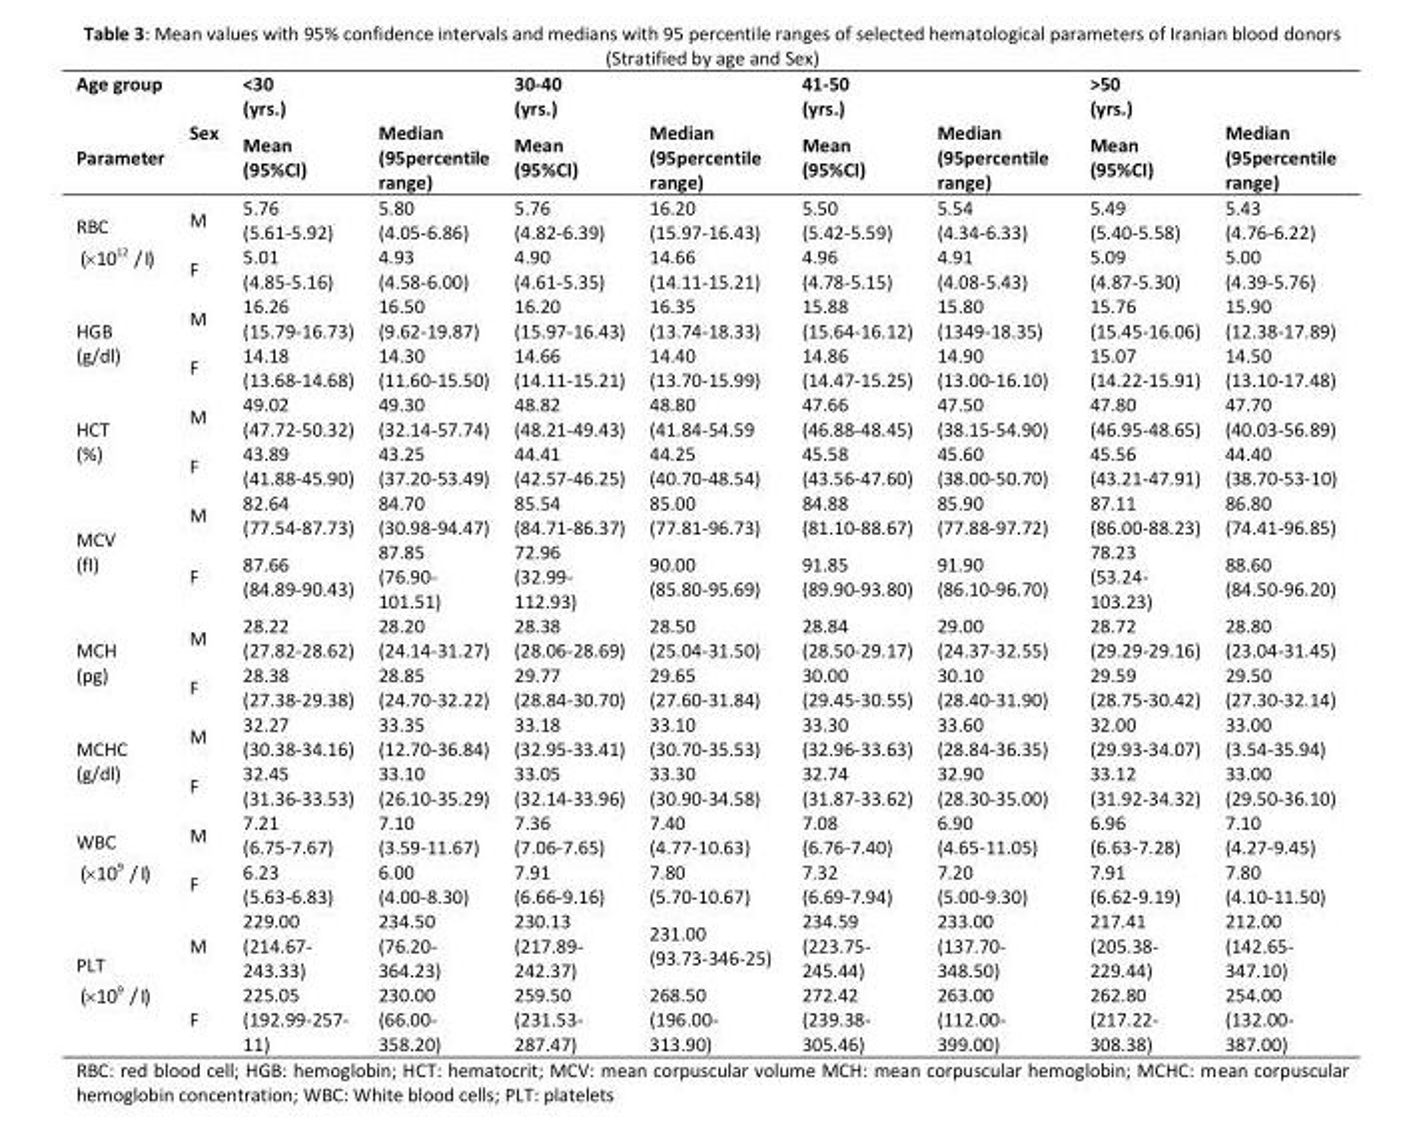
<table><thead><tr><td rowspan="2">Age group Parameter</td><td rowspan="2">Sex</td><td colspan="2">&lt;30 (yrs.)</td><td colspan="2">30-40 (yrs.)</td><td colspan="2">41-50 (yrs.)</td><td colspan="2">&gt;50 (yrs.)</td></tr><tr><td>Mean (95%CI)</td><td>Median (95percentile range)</td><td>Mean (95%CI)</td><td>Median (95percentile range)</td><td>Mean (95%CI)</td><td>Median (95percentile range)</td><td>Mean (95%CI)</td><td>Median (95percentile range)</td></tr></thead><tbody><tr><td rowspan="2">RBC 12 ( 10 /I) </td><td>M</td><td>5.76 (5.61-5.92)</td><td>5.80 (4.05-6.86)</td><td>5.76 (4.82-6.39)</td><td>16.20 (15.97-16.43)</td><td>5.50 (5.42-5.59)</td><td>5.54 (4.34-6.33)</td><td>5.49 (5.40-5.58)</td><td>5.43 (4.76-6.22)</td></tr><tr><td>F</td><td>5.01 (4.85-5.16)</td><td>4.93 (4.58-6.00)</td><td>4.90 (4.61-5.35)</td><td>14.66 (14.11-15.21)</td><td>4.96 (4.78-5.15)</td><td>4.91 (4.08-5.43)</td><td>5.09 (4.87-5.30)</td><td>5.00 (4.39-5.76)</td></tr><tr><td rowspan="2">HGB (g/dl)</td><td>M</td><td>16.26 (15.79-16.73)</td><td>16.50 (9.62-19.87)</td><td>16.20 (15.97-16.43)</td><td>16.35 (13.74-18.33)</td><td>15.88 (15.64-16.12)</td><td>15.80 (1349-18.35)</td><td>15.76 (15.45-16.06)</td><td>15.90 (12.38-17.89)</td></tr><tr><td>F</td><td>14.18 (13.68-14.68)</td><td>14.30 (11.60-15.50)</td><td>14.66 (14.11-15.21)</td><td>14.40 (13.70-15.99)</td><td>14.86 (14.47-15.25)</td><td>14.90 (13.00-16.10)</td><td>15.07 (14.22-15.91)</td><td>14.50 (13.10-17.48)</td></tr><tr><td rowspan="2">HCT (%)</td><td>M</td><td>49.02 (47.72-50.32)</td><td>49.30 (32.14-57.74)</td><td>48.82 (48.21-49.43)</td><td>48.80 (41.84-54.59</td><td>47.66 (46.88-48.45)</td><td>47.50 (38.15-54.90)</td><td>47.80 (46.95-48.65)</td><td>47.70 (40.03-56.89)</td></tr><tr><td>F</td><td>43.89 (41.88-45.90)</td><td>43.25 (37.20-53.49)</td><td>44.41 (42.57-46.25)</td><td>44.25 (40.70-48.54)</td><td>45.58 (43.56-47.60)</td><td>45.60 (38.00-50.70)</td><td>45.56 (43.21-47.91)</td><td>44.40 (38.70-53-10)</td></tr><tr><td rowspan="2">MCV (fI)</td><td>M</td><td>82.64 (77.54-87.73)</td><td>84.70 (30.98-94.47)</td><td>85.54 (84.71-86.37)</td><td>85.00 (77.81-96.73)</td><td>84.88 (81.10-88.67)</td><td>85.90 (77.88-97.72)</td><td>87.11 (86.00-88.23)</td><td>86.80 (74.41-96.85)</td></tr><tr><td>F</td><td>87.66 (84.89-90.43)</td><td>87.85 (76.90- 101.51)</td><td>72.96 (32.99- 112.93)</td><td>90.00 (85.80-95.69)</td><td>91.85 (89.90-93.80)</td><td>91.90 (86.10-96.70)</td><td>78.23 (53.24- 103.23)</td><td>88.60 (84.50-96.20)</td></tr><tr><td rowspan="2">MCH (pg)</td><td>M</td><td>28.22 (27.82-28.62)</td><td>28.20 (24.14-31.27)</td><td>28.38 (28.06-28.69)</td><td>28.50 (25.04-31.50)</td><td>28.84 (28.50-29.17)</td><td>29.00 (24.37-32.55)</td><td>28.72 (29.29-29.16)</td><td>28.80 (23.04-31.45)</td></tr><tr><td>F</td><td>28.38 (27.38-29.38)</td><td>28.85 (24.70-32.22)</td><td>29.77 (28.84-30.70)</td><td>29.65 (27.60-31.84)</td><td>30.00 (29.45-30.55)</td><td>30.10 (28.40-31.90)</td><td>29.59 (28.75-30.42)</td><td>29.50 (27.30-32.14)</td></tr><tr><td rowspan="2">MCHC (g/dl)</td><td>M</td><td>32.27 (30.38-34.16)</td><td>33.35 (12.70-36.84)</td><td>33.18 (32.95-33.41)</td><td>33.10 (30.70-35.53)</td><td>33.30 (32.96-33.63)</td><td>33.60 (28.84-36.35)</td><td>32.00 (29.93-34.07)</td><td>33.00 (3.54-35.94)</td></tr><tr><td>F</td><td>32.45 (31.36-33.53)</td><td>33.10 (26.10-35.29)</td><td>33.05 (32.14-33.96)</td><td>33.30 (30.90-34.58)</td><td>32.74 (31.87-33.62)</td><td>32.90 (28.30-35.00)</td><td>33.12 (31.92-34.32)</td><td>33.00 (29.50-36.10)</td></tr><tr><td rowspan="2">WBC 9 ( 10 /I) </td><td>M</td><td>7.21 (6.75-7.67)</td><td>7.10 (3.59-11.67)</td><td>7.36 (7.06-7.65)</td><td>7.40 (4.77-10.63)</td><td>7.08 (6.76-7.40)</td><td>6.90 (4.65-11.05)</td><td>6.96 (6.63-7.28)</td><td>7.10 (4.27-9.45)</td></tr><tr><td>F</td><td>6.23 (5.63-6.83)</td><td>6.00 (4.00-8.30)</td><td>7.91 (6.66-9.16)</td><td>7.80 (5.70-10.67)</td><td>7.32 (6.69-7.94)</td><td>7.20 (5.00-9.30)</td><td>7.91 (6.62-9.19)</td><td>7.80 (4.10-11.50)</td></tr><tr><td rowspan="2">PLT 9 ( 10 /I) </td><td>M</td><td>229.00 (214.67- 243.33)</td><td>234.50 (76.20- 364.23)</td><td>230.13 (217.89- 242.37)</td><td>231.00 (93.73-346-25)</td><td>234.59 (223.75- 245.44)</td><td>233.00 (137.70- 348.50)</td><td>217.41 (205.38- 229.44)</td><td>212.00 (142.65- 347.10)</td></tr><tr><td>F</td><td>225.05 (192.99-257- 11)</td><td>230.00 (66.00- 358.20)</td><td>259.50 (231.53- 287.47)</td><td>268.50 (196.00- 313.90)</td><td>272.42 (239.38- 305.46)</td><td>263.00 (112.00- 399.00)</td><td>262.80 (217.22- 308.38)</td><td>254.00 (132.00- 387.00)</td></tr></tbody></table>